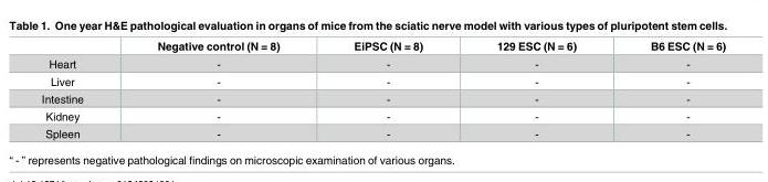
<table><thead><tr><td></td><td>Negative control (N = 8)</td><td>EiPSC (N = 8)</td><td>129 ESC (N = 6)</td><td>B6 ESC (N = 6)</td></tr></thead><tbody><tr><td>Heart</td><td>-</td><td>-</td><td>-</td><td>-</td></tr><tr><td>Liver</td><td>-</td><td>-</td><td>-</td><td>-</td></tr><tr><td>Intestine</td><td>-</td><td>-</td><td>-</td><td>-</td></tr><tr><td>Kidney</td><td>-</td><td>-</td><td>-</td><td>-</td></tr><tr><td>Spleen</td><td>-</td><td>-</td><td>-</td><td>-</td></tr></tbody></table>